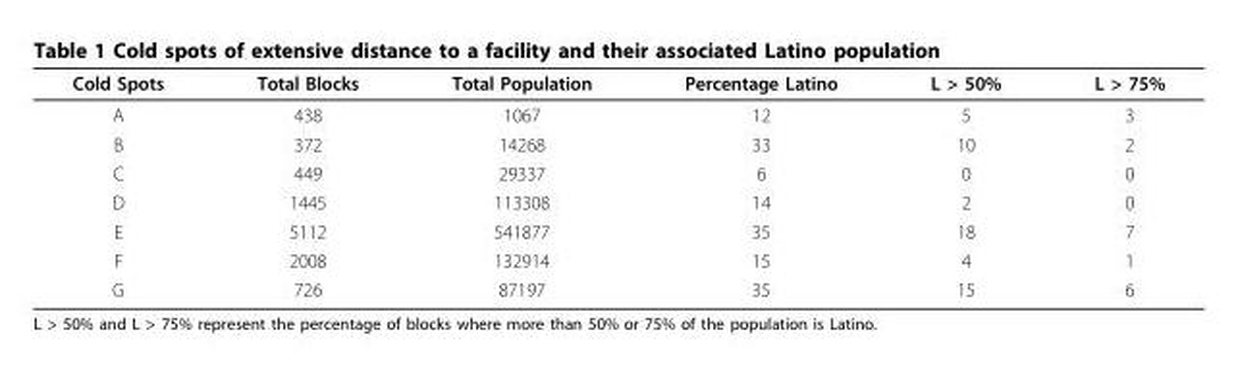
<table><thead><tr><td>Cold Spots</td><td>Total Blocks</td><td>Total Population</td><td>Percentage Latino</td><td>L &gt; 50%</td><td>L &gt; 75%</td></tr></thead><tbody><tr><td>A</td><td>438</td><td>1067</td><td>12</td><td>5</td><td>3</td></tr><tr><td>B</td><td>372</td><td>14268</td><td>33</td><td>10</td><td>2</td></tr><tr><td>C</td><td>449</td><td>29337</td><td>6</td><td>0</td><td>0</td></tr><tr><td>D</td><td>1445</td><td>113308</td><td>14</td><td>2</td><td>0</td></tr><tr><td>E</td><td>5112</td><td>541877</td><td>35</td><td>18</td><td>7</td></tr><tr><td>F</td><td>2008</td><td>132914</td><td>15</td><td>4</td><td>1</td></tr><tr><td>G</td><td>726</td><td>87197</td><td>35</td><td>15</td><td>6</td></tr></tbody></table>